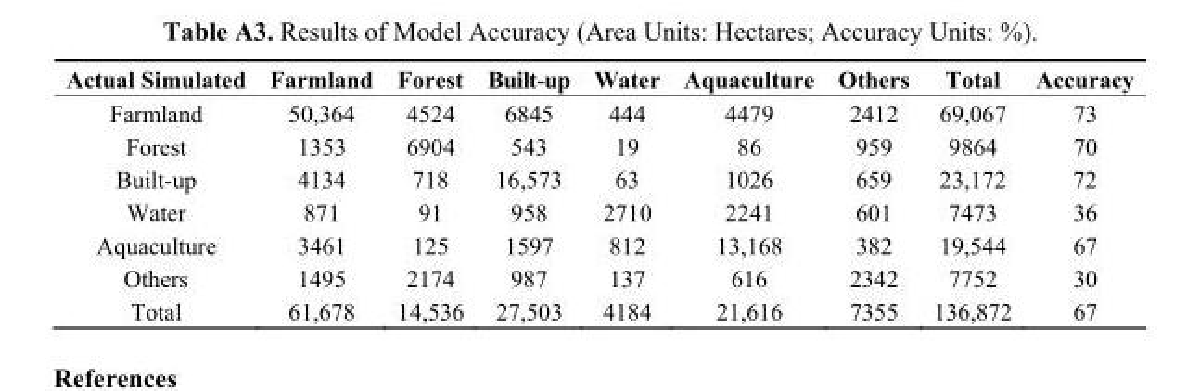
<table><thead><tr><td>Actual Simulated</td><td>Farmland</td><td>Forest</td><td>Built-up</td><td>Water</td><td>Aquaculture</td><td>Others</td><td>Total</td><td>Accuracy</td></tr></thead><tbody><tr><td>Farmland</td><td>50,364</td><td>4524</td><td>6845</td><td>444</td><td>4479</td><td>2412</td><td>69,067</td><td>73</td></tr><tr><td>Forest</td><td>1353</td><td>6904</td><td>543</td><td>19</td><td>86</td><td>959</td><td>9864</td><td>70</td></tr><tr><td>Built-up</td><td>4134</td><td>718</td><td>16,573</td><td>63</td><td>1026</td><td>659</td><td>23,172</td><td>72</td></tr><tr><td>Water</td><td>871</td><td>91</td><td>958</td><td>2710</td><td>2241</td><td>601</td><td>7473</td><td>36</td></tr><tr><td>Aquaculture</td><td>3461</td><td>125</td><td>1597</td><td>812</td><td>13,168</td><td>382</td><td>19,544</td><td>67</td></tr><tr><td>Others</td><td>1495</td><td>2174</td><td>987</td><td>137</td><td>616</td><td>2342</td><td>7752</td><td>30</td></tr><tr><td>Total</td><td>61,678</td><td>14,536</td><td>27,503</td><td>4184</td><td>21,616</td><td>7355</td><td>136,872</td><td>67</td></tr></tbody></table>